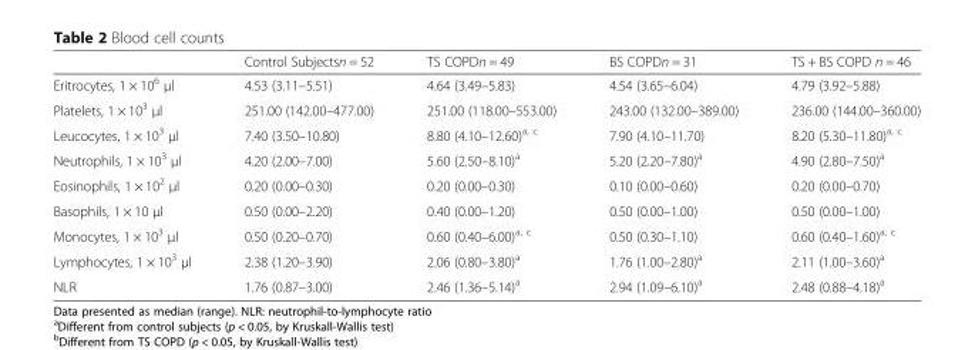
<table><thead><tr><td></td><td>Control Subjectsn = 52</td><td>TS COPDn = 49</td><td>BS COPDn = 31</td><td>TS + BS COPD n = 46</td></tr></thead><tbody><tr><td>Eritrocytes, 1 × 10<sup>6</sup> μl</td><td>4.53 (3.11–5.51)</td><td>4.64 (3.49–5.83)</td><td>4.54 (3.65–6.04)</td><td>4.79 (3.92–5.88)</td></tr><tr><td>Platelets, 1 × 10<sup>3</sup> μl</td><td>251.00 (142.00–477.00)</td><td>251.00 (118.00–553.00)</td><td>243.00 (132.00–389.00)</td><td>236.00 (144.00–360.00)</td></tr><tr><td>Leucocytes, 1 × 10<sup>3</sup> μl</td><td>7.40 (3.50–10.80)</td><td>8.80 (4.10–12.60)<sup>a, c</sup></td><td>7.90 (4.10–11.70)</td><td>8.20 (5.30–11.80)<sup>a, c</sup></td></tr><tr><td>Neutrophils, 1 × 10<sup>3</sup> μl</td><td>4.20 (2.00–7.00)</td><td>5.60 (2.50–8.10)<sup>a</sup></td><td>5.20 (2.20–7.80)<sup>a</sup></td><td>4.90 (2.80–7.50)<sup>a</sup></td></tr><tr><td>Eosinophils, 1 × 10<sup>2</sup> μl</td><td>0.20 (0.00–0.30)</td><td>0.20 (0.00–0.30)</td><td>0.10 (0.00–0.60)</td><td>0.20 (0.00–0.70)</td></tr><tr><td>Basophils, 1 × 10 μl</td><td>0.50 (0.00–2.20)</td><td>0.40 (0.00–1.20)</td><td>0.50 (0.00–1.00)</td><td>0.50 (0.00–1.00)</td></tr><tr><td>Monocytes, 1 × 10<sup>3</sup> μl</td><td>0.50 (0.20–0.70)</td><td>0.60 (0.40–6.00)<sup>a, c</sup></td><td>0.50 (0.30–1.10)</td><td>0.60 (0.40–1.60)<sup>a, c</sup></td></tr><tr><td>Lymphocytes, 1 × 10<sup>3</sup> μl</td><td>2.38 (1.20–3.90)</td><td>2.06 (0.80–3.80)<sup>a</sup></td><td>1.76 (1.00–2.80)<sup>a</sup></td><td>2.11 (1.00–3.60)<sup>a</sup></td></tr><tr><td>NLR</td><td>1.76 (0.87–3.00)</td><td>2.46 (1.36–5.14)<sup>a</sup></td><td>2.94 (1.09–6.10)<sup>a</sup></td><td>2.48 (0.88–4.18)<sup>a</sup></td></tr></tbody></table>